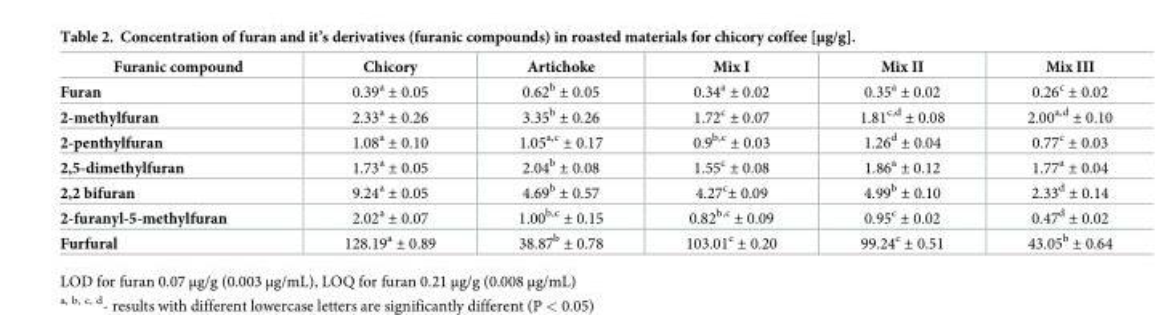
<table><thead><tr><td>Furanic compound</td><td>Chicory</td><td>Artichoke</td><td>Mix I</td><td>Mix II</td><td>Mix III</td></tr></thead><tbody><tr><td>Furan</td><td>0.39<sup>a</sup> ± 0.05</td><td>0.62<sup>b</sup> ± 0.05</td><td>0.34<sup>a</sup> ± 0.02</td><td>0.35<sup>a</sup> ± 0.02</td><td>0.26<sup>c</sup> ± 0.02</td></tr><tr><td>2-methylfuran</td><td>2.33<sup>a</sup> ± 0.26</td><td>3.35<sup>b</sup> ± 0.26</td><td>1.72<sup>c</sup> ± 0.07</td><td>1.81<sup>c,d</sup> ± 0.08</td><td>2.00<sup>a,d</sup> ± 0.10</td></tr><tr><td>2-penthylfuran</td><td>1.08<sup>a</sup> ± 0.10</td><td>1.05<sup>a,c</sup> ± 0.17</td><td>0.9<sup>b,c</sup> ± 0.03</td><td>1.26<sup>d</sup> ± 0.04</td><td>0.77<sup>c</sup> ± 0.03</td></tr><tr><td>2,5-dimethylfuran</td><td>1.73<sup>a</sup> ± 0.05</td><td>2.04<sup>b</sup> ± 0.08</td><td>1.55<sup>c</sup> ± 0.08</td><td>1.86<sup>a</sup> ± 0.12</td><td>1.77<sup>a</sup> ± 0.04</td></tr><tr><td>2,2 bifuran</td><td>9.24<sup>a</sup> ± 0.05</td><td>4.69<sup>b</sup> ± 0.57</td><td>4.27<sup>c</sup>± 0.09</td><td>4.99<sup>b</sup> ± 0.10</td><td>2.33<sup>d</sup> ± 0.14</td></tr><tr><td>2-furanyl-5-methylfuran</td><td>2.02<sup>a</sup> ± 0.07</td><td>1.00<sup>b,c</sup> ± 0.15</td><td>0.82<sup>b,c</sup> ± 0.09</td><td>0.95<sup>c</sup> ± 0.02</td><td>0.47<sup>d</sup> ± 0.02</td></tr><tr><td>Furfural</td><td>128.19<sup>a</sup> ± 0.89</td><td>38.87<sup>b</sup> ± 0.78</td><td>103.01<sup>c</sup> ± 0.20</td><td>99.24<sup>c</sup> ± 0.51</td><td>43.05<sup>b</sup> ± 0.64</td></tr></tbody></table>